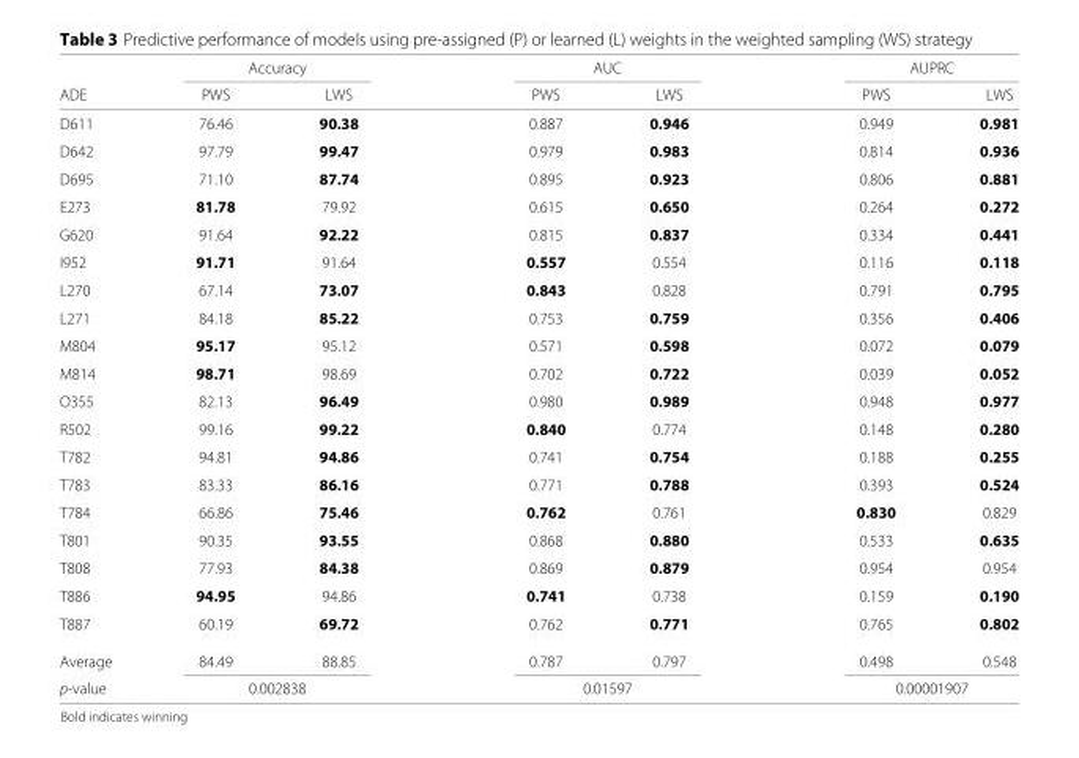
<table><thead><tr><td rowspan="2">ADE</td><td colspan="2">Accuracy</td><td colspan="2">AUC</td><td colspan="2">AUPRC</td></tr><tr><td>PWS</td><td>LWS</td><td>PWS</td><td>LWS</td><td>PWS</td><td>LWS</td></tr></thead><tbody><tr><td>D611</td><td>76.46</td><td>90.38</td><td>0.887</td><td>0.946</td><td>0.949</td><td>0.981</td></tr><tr><td>D642</td><td>97.79</td><td>99.47</td><td>0.979</td><td>0.983</td><td>0.814</td><td>0.936</td></tr><tr><td>D695</td><td>71.10</td><td>87.74</td><td>0.895</td><td>0.923</td><td>0.806</td><td>0.881</td></tr><tr><td>E273</td><td>81.78</td><td>79.92</td><td>0.615</td><td>0.650</td><td>0.264</td><td>0.272</td></tr><tr><td>G620</td><td>91.64</td><td>92.22</td><td>0.815</td><td>0.837</td><td>0.334</td><td>0.441</td></tr><tr><td>I952</td><td>91.71</td><td>91.64</td><td>0.557</td><td>0.554</td><td>0.116</td><td>0.118</td></tr><tr><td>L270</td><td>67.14</td><td>73.07</td><td>0.843</td><td>0.828</td><td>0.791</td><td>0.795</td></tr><tr><td>L271</td><td>84.18</td><td>85.22</td><td>0.753</td><td>0.759</td><td>0.356</td><td>0.406</td></tr><tr><td>M804</td><td>95.17</td><td>95.12</td><td>0.571</td><td>0.598</td><td>0.072</td><td>0.079</td></tr><tr><td>M814</td><td>98.71</td><td>98.69</td><td>0.702</td><td>0.722</td><td>0.039</td><td>0.052</td></tr><tr><td>O355</td><td>82.13</td><td>96.49</td><td>0.980</td><td>0.989</td><td>0.948</td><td>0.977</td></tr><tr><td>R502</td><td>99.16</td><td>99.22</td><td>0.840</td><td>0.774</td><td>0.148</td><td>0.280</td></tr><tr><td>T782</td><td>94.81</td><td>94.86</td><td>0.741</td><td>0.754</td><td>0.188</td><td>0.255</td></tr><tr><td>T783</td><td>83.33</td><td>86.16</td><td>0.771</td><td>0.788</td><td>0.393</td><td>0.524</td></tr><tr><td>T784</td><td>66.86</td><td>75.46</td><td>0.762</td><td>0.761</td><td>0.830</td><td>0.829</td></tr><tr><td>T801</td><td>90.35</td><td>93.55</td><td>0.868</td><td>0.880</td><td>0.533</td><td>0.635</td></tr><tr><td>T808</td><td>77.93</td><td>84.38</td><td>0.869</td><td>0.879</td><td>0.954</td><td>0.954</td></tr><tr><td>T886</td><td>94.95</td><td>94.86</td><td>0.741</td><td>0.738</td><td>0.159</td><td>0.190</td></tr><tr><td>T887</td><td>60.19</td><td>69.72</td><td>0.762</td><td>0.771</td><td>0.765</td><td>0.802</td></tr><tr><td>Average</td><td>84.49</td><td>88.85</td><td>0.787</td><td>0.797</td><td>0.498</td><td>0.548</td></tr><tr><td>p-value</td><td colspan="2">0.002838</td><td colspan="2">0.01597</td><td colspan="2">0.00001907</td></tr></tbody></table>